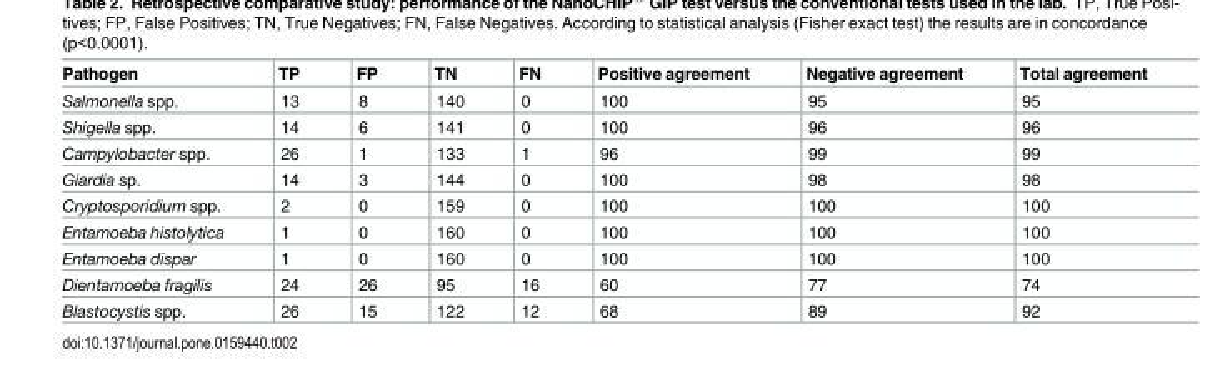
<table><thead><tr><td>Pathogen</td><td>TP</td><td>FP</td><td>TN</td><td>FN</td><td>Positive agreement</td><td>Negative agreement</td><td>Total agreement</td></tr></thead><tbody><tr><td>Salmonella spp.</td><td>13</td><td>8</td><td>140</td><td>0</td><td>100</td><td>95</td><td>95</td></tr><tr><td>Shigella spp.</td><td>14</td><td>6</td><td>141</td><td>0</td><td>100</td><td>96</td><td>96</td></tr><tr><td>Campylobacter spp.</td><td>26</td><td>1</td><td>133</td><td>1</td><td>96</td><td>99</td><td>99</td></tr><tr><td>Giardia sp.</td><td>14</td><td>3</td><td>144</td><td>0</td><td>100</td><td>98</td><td>98</td></tr><tr><td>Cryptosporidium spp.</td><td>2</td><td>0</td><td>159</td><td>0</td><td>100</td><td>100</td><td>100</td></tr><tr><td>Entamoeba histolytica</td><td>1</td><td>0</td><td>160</td><td>0</td><td>100</td><td>100</td><td>100</td></tr><tr><td>Entamoeba dispar</td><td>1</td><td>0</td><td>160</td><td>0</td><td>100</td><td>100</td><td>100</td></tr><tr><td>Dientamoeba fragilis</td><td>24</td><td>26</td><td>95</td><td>16</td><td>60</td><td>77</td><td>74</td></tr><tr><td>Blastocystis spp.</td><td>26</td><td>15</td><td>122</td><td>12</td><td>68</td><td>89</td><td>92</td></tr></tbody></table>